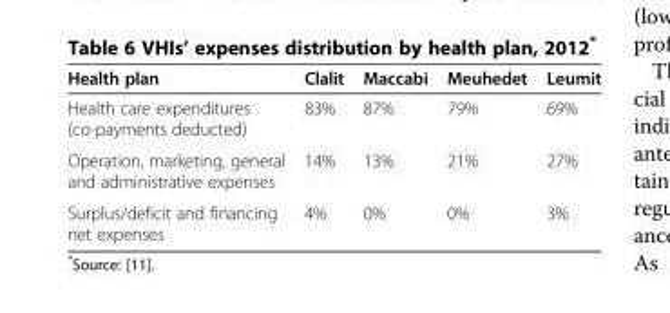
<table><thead><tr><td>Health plan</td><td>Clalit</td><td>Maccabi</td><td>Meuhedet</td><td>Leumit</td></tr></thead><tbody><tr><td>Health care expenditures (co-payments deducted)</td><td>83%</td><td>87%</td><td>79%</td><td>69%</td></tr><tr><td>Operation, marketing, general and administrative expenses</td><td>14%</td><td>13%</td><td>21%</td><td>27%</td></tr><tr><td>Surplus/deficit and financing net expenses</td><td>4%</td><td>0%</td><td>0%</td><td>3%</td></tr></tbody></table>